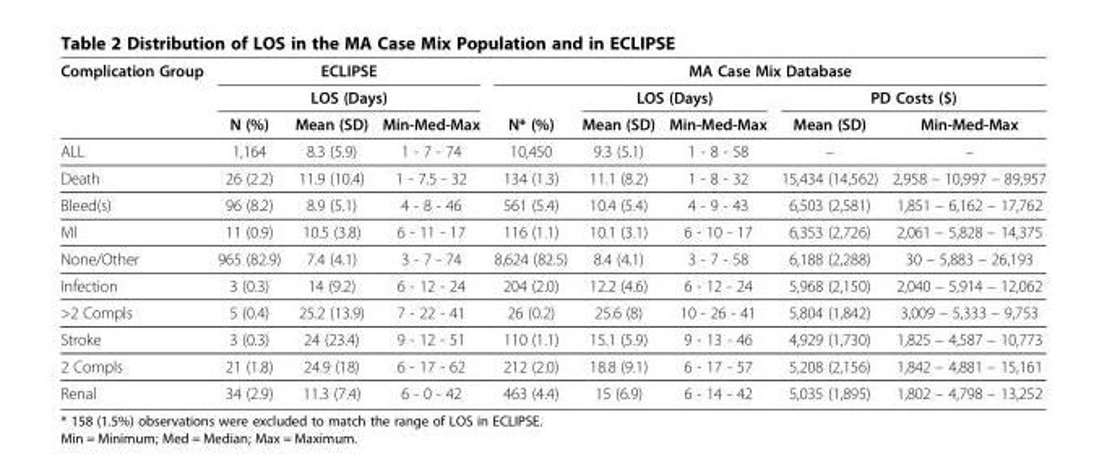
<table><thead><tr><td rowspan="3">Complication Group</td><td rowspan="2" colspan="3">ECLIPSE LOS (Days)</td><td colspan="5">MA Case Mix Database</td></tr><tr><td rowspan="2">N* (%)</td><td colspan="2">LOS (Days)</td><td colspan="2">PD Costs ($)</td></tr><tr><td>N (%)</td><td>Mean (SD)</td><td>Min-Med-Max</td><td>Mean (SD)</td><td>Min-Med-Max</td><td>Mean (SD)</td><td>Min-Med-Max</td></tr></thead><tbody><tr><td>ALL</td><td>1,164</td><td>8.3 (5.9)</td><td>1 - 7 - 74</td><td>10,450</td><td>9.3 (5.1)</td><td>1 - 8 - 58</td><td>–</td><td>–</td></tr><tr><td>Death</td><td>26 (2.2)</td><td>11.9 (10.4)</td><td>1 - 7.5 - 32</td><td>134 (1.3)</td><td>11.1 (8.2)</td><td>1 - 8 - 32</td><td>15,434 (14,562)</td><td>2,958 – 10,997 – 89,957</td></tr><tr><td>Bleed(s)</td><td>96 (8.2)</td><td>8.9 (5.1)</td><td>4 - 8 - 46</td><td>561 (5.4)</td><td>10.4 (5.4)</td><td>4 - 9 - 43</td><td>6,503 (2,581)</td><td>1,851 – 6,162 – 17,762</td></tr><tr><td>MI</td><td>11 (0.9)</td><td>10.5 (3.8)</td><td>6 - 11 - 17</td><td>116 (1.1)</td><td>10.1 (3.1)</td><td>6 - 10 - 17</td><td>6,353 (2,726)</td><td>2,061 – 5,828 – 14,375</td></tr><tr><td>None/Other</td><td>965 (82.9)</td><td>7.4 (4.1)</td><td>3 - 7 - 74</td><td>8,624 (82.5)</td><td>8.4 (4.1)</td><td>3 - 7 - 58</td><td>6,188 (2,288)</td><td>30 – 5,883 – 26,193</td></tr><tr><td>Infection</td><td>3 (0.3)</td><td>14 (9.2)</td><td>6 - 12 - 24</td><td>204 (2.0)</td><td>12.2 (4.6)</td><td>6 - 12 - 24</td><td>5,968 (2,150)</td><td>2,040 – 5,914 – 12,062</td></tr><tr><td>&gt;2 Compls</td><td>5 (0.4)</td><td>25.2 (13.9)</td><td>7 - 22 - 41</td><td>26 (0.2)</td><td>25.6 (8)</td><td>10 - 26 - 41</td><td>5,804 (1,842)</td><td>3,009 – 5,333 – 9,753</td></tr><tr><td>Stroke</td><td>3 (0.3)</td><td>24 (23.4)</td><td>9 - 12 - 51</td><td>110 (1.1)</td><td>15.1 (5.9)</td><td>9 - 13 - 46</td><td>4,929 (1,730)</td><td>1,825 – 4,587 – 10,773</td></tr><tr><td>2 Compls</td><td>21 (1.8)</td><td>24.9 (18)</td><td>6 - 17 - 62</td><td>212 (2.0)</td><td>18.8 (9.1)</td><td>6 - 17 - 57</td><td>5,208 (2,156)</td><td>1,842 – 4,881 – 15,161</td></tr><tr><td>Renal</td><td>34 (2.9)</td><td>11.3 (7.4)</td><td>6 - 0 - 42</td><td>463 (4.4)</td><td>15 (6.9)</td><td>6 - 14 - 42</td><td>5,035 (1,895)</td><td>1,802 – 4,798 – 13,252</td></tr></tbody></table>